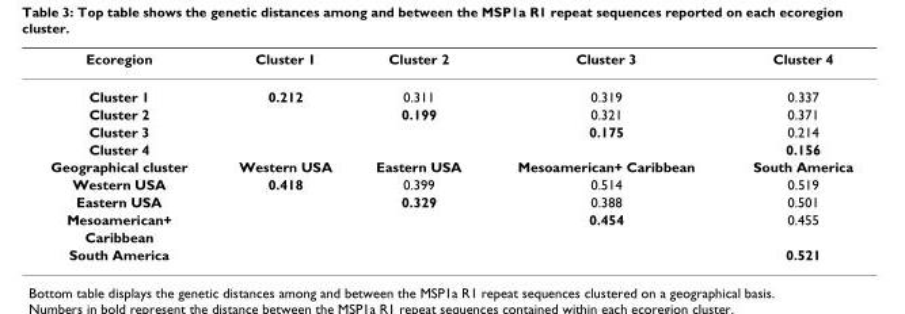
<table><thead><tr><td>Ecoregion</td><td>Cluster 1</td><td>Cluster 2</td><td>Cluster 3</td><td>Cluster 4</td></tr></thead><tbody><tr><td>Cluster 1</td><td>0.212</td><td>0.311</td><td>0.319</td><td>0.337</td></tr><tr><td>Cluster 2</td><td></td><td>0.199</td><td>0.321</td><td>0.371</td></tr><tr><td>Cluster 3</td><td></td><td></td><td>0.175</td><td>0.214</td></tr><tr><td>Cluster 4</td><td></td><td></td><td></td><td>0.156</td></tr><tr><td>Geographical cluster</td><td>Western USA</td><td>Eastern USA</td><td>Mesoamerican+ Caribbean</td><td>South America</td></tr><tr><td>Western USA</td><td>0.418</td><td>0.399</td><td>0.514</td><td>0.519</td></tr><tr><td>Eastern USA</td><td></td><td>0.329</td><td>0.388</td><td>0.501</td></tr><tr><td>Mesoamerican+</td><td></td><td></td><td>0.454</td><td>0.455</td></tr><tr><td colspan="5">Caribbean</td></tr><tr><td>South America</td><td></td><td></td><td></td><td>0.521</td></tr></tbody></table>